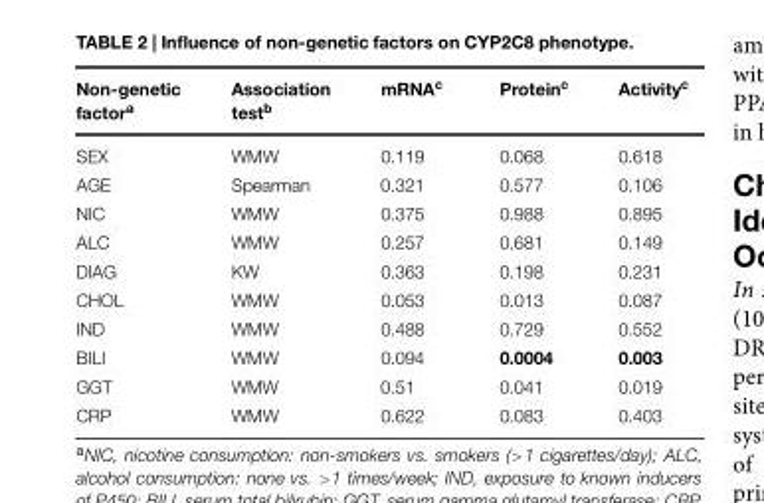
<table><thead><tr><td>Non-genetic factor<sup>a</sup></td><td>Association test<sup>b</sup></td><td>mRNA<sup>c</sup></td><td>Protein<sup>c</sup></td><td>Activity<sup>c</sup></td></tr></thead><tbody><tr><td>SEX</td><td>WMW</td><td>0.119</td><td>0.068</td><td>0.618</td></tr><tr><td>AGE</td><td>Spearman</td><td>0.321</td><td>0.577</td><td>0.106</td></tr><tr><td>NIC</td><td>WMW</td><td>0.375</td><td>0.988</td><td>0.895</td></tr><tr><td>ALC</td><td>WMW</td><td>0.257</td><td>0.681</td><td>0.149</td></tr><tr><td>DIAG</td><td>KW</td><td>0.363</td><td>0.198</td><td>0.231</td></tr><tr><td>CHOL</td><td>WMW</td><td>0.053</td><td>0.013</td><td>0.087</td></tr><tr><td>IND</td><td>WMW</td><td>0.488</td><td>0.729</td><td>0.552</td></tr><tr><td>BILI</td><td>WMW</td><td>0.094</td><td>0.0004</td><td>0.003</td></tr><tr><td>GGT</td><td>WMW</td><td>0.51</td><td>0.041</td><td>0.019</td></tr><tr><td>CRP</td><td>WMW</td><td>0.622</td><td>0.083</td><td>0.403</td></tr></tbody></table>